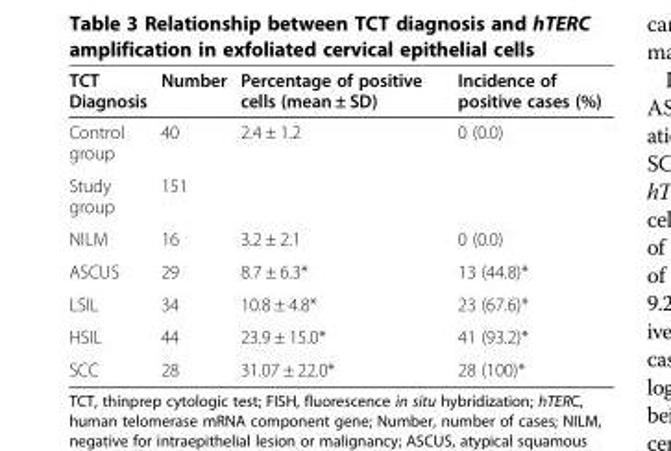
<table><thead><tr><td>TCT Diagnosis</td><td>Number</td><td>Percentage of positive cells (mean ± SD)</td><td>Incidence of positive cases (%)</td></tr></thead><tbody><tr><td>Control group</td><td>40</td><td>2.4 ± 1.2</td><td>0 (0.0)</td></tr><tr><td>Study group</td><td>151</td><td></td><td></td></tr><tr><td>NILM</td><td>16</td><td>3.2 ± 2.1</td><td>0 (0.0)</td></tr><tr><td>ASCUS</td><td>29</td><td>8.7 ± 6.3*</td><td>13 (44.8)*</td></tr><tr><td>LSIL</td><td>34</td><td>10.8 ± 4.8*</td><td>23 (67.6)*</td></tr><tr><td>HSIL</td><td>44</td><td>23.9 ± 15.0*</td><td>41 (93.2)*</td></tr><tr><td>SCC</td><td>28</td><td>31.07 ± 22.0*</td><td>28 (100)*</td></tr></tbody></table>